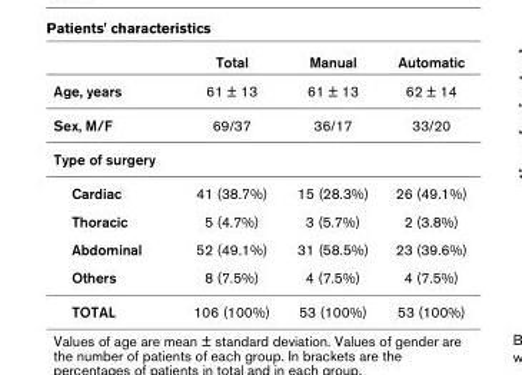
<table><thead><tr><td></td><td>Total</td><td>Manual</td><td>Automatic</td></tr></thead><tbody><tr><td>Age, years</td><td>61 ± 13</td><td>61 ± 13</td><td>62 ± 14</td></tr><tr><td>Sex, M/F</td><td>69/37</td><td>36/17</td><td>33/20</td></tr><tr><td colspan="4">Type of surgery</td></tr><tr><td>Cardiac</td><td>41 (38.7%)</td><td>15 (28.3%)</td><td>26 (49.1%)</td></tr><tr><td>Thoracic</td><td>5 (4.7%)</td><td>3 (5.7%)</td><td>2 (3.8%)</td></tr><tr><td>Abdominal</td><td>52 (49.1%)</td><td>31 (58.5%)</td><td>23 (39.6%)</td></tr><tr><td>Others</td><td>8 (7.5%)</td><td>4 (7.5%)</td><td>4 (7.5%)</td></tr><tr><td>TOTAL</td><td>106 (100%)</td><td>53 (100%)</td><td>53 (100%)</td></tr></tbody></table>